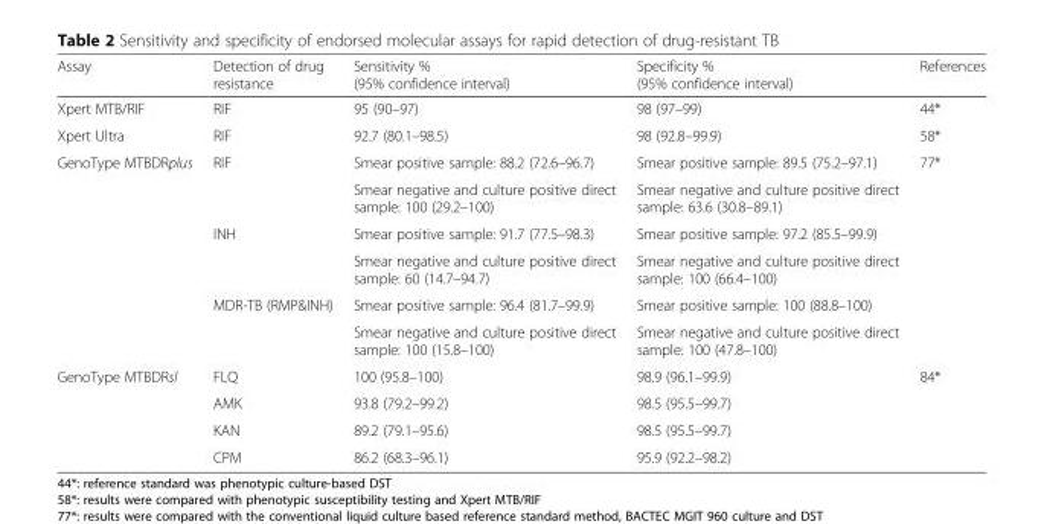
<table><thead><tr><td>Assay</td><td>Detection of drug resistance</td><td>Sensitivity % (95% confidence interval)</td><td>Specificity % (95% confidence interval)</td><td>References</td></tr></thead><tbody><tr><td>Xpert MTB/RIF</td><td>RIF</td><td>95 (90–97)</td><td>98 (97–99)</td><td>44*</td></tr><tr><td>Xpert Ultra</td><td>RIF</td><td>92.7 (80.1–98.5)</td><td>98 (92.8–99.9)</td><td>58*</td></tr><tr><td rowspan="6">GenoType MTBDRplus</td><td rowspan="2">RIF</td><td>Smear positive sample: 88.2 (72.6–96.7)</td><td>Smear positive sample: 89.5 (75.2–97.1)</td><td rowspan="6">77*</td></tr><tr><td>Smear negative and culture positive direct sample: 100 (29.2–100)</td><td>Smear negative and culture positive direct sample: 63.6 (30.8–89.1)</td></tr><tr><td rowspan="2">INH</td><td>Smear positive sample: 91.7 (77.5–98.3)</td><td>Smear positive sample: 97.2 (85.5–99.9)</td></tr><tr><td>Smear negative and culture positive direct sample: 60 (14.7–94.7)</td><td>Smear negative and culture positive direct sample: 100 (66.4–100)</td></tr><tr><td rowspan="2">MDR-TB (RMP&amp;INH)</td><td>Smear positive sample: 96.4 (81.7–99.9)</td><td>Smear positive sample: 100 (88.8–100)</td></tr><tr><td>Smear negative and culture positive direct sample: 100 (15.8–100)</td><td>Smear negative and culture positive direct sample: 100 (47.8–100)</td></tr><tr><td rowspan="4">GenoType MTBDRsl</td><td>FLQ</td><td>100 (95.8–100)</td><td>98.9 (96.1–99.9)</td><td rowspan="4">84*</td></tr><tr><td>AMK</td><td>93.8 (79.2–99.2)</td><td>98.5 (95.5–99.7)</td></tr><tr><td>KAN</td><td>89.2 (79.1–95.6)</td><td>98.5 (95.5–99.7)</td></tr><tr><td>CPM</td><td>86.2 (68.3–96.1)</td><td>95.9 (92.2–98.2)</td></tr></tbody></table>